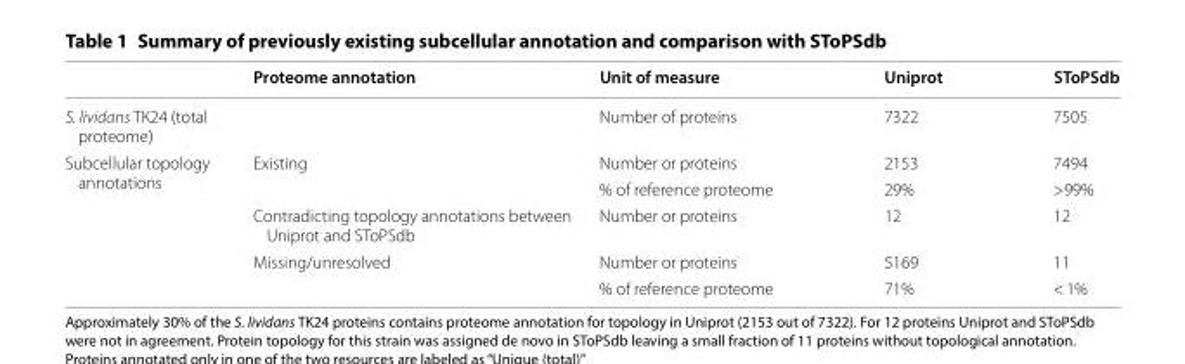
<table><thead><tr><td></td><td>Proteome annotation</td><td>Unit of measure</td><td>Uniprot</td><td>SToPSdb</td></tr></thead><tbody><tr><td>S. lividans TK24 (total proteome)</td><td></td><td>Number of proteins</td><td>7322</td><td>7505</td></tr><tr><td rowspan="5">Subcellular topology annotations</td><td rowspan="2">Existing</td><td>Number or proteins</td><td>2153</td><td>7494</td></tr><tr><td>% of reference proteome</td><td>29%</td><td>&gt;99%</td></tr><tr><td>Contradicting topology annotations between Uniprot and SToPSdb</td><td>Number or proteins</td><td>12</td><td>12</td></tr><tr><td rowspan="2">Missing/unresolved</td><td>Number or proteins</td><td>5169</td><td>11</td></tr><tr><td>% of reference proteome</td><td>71%</td><td>&lt; 1%</td></tr></tbody></table>